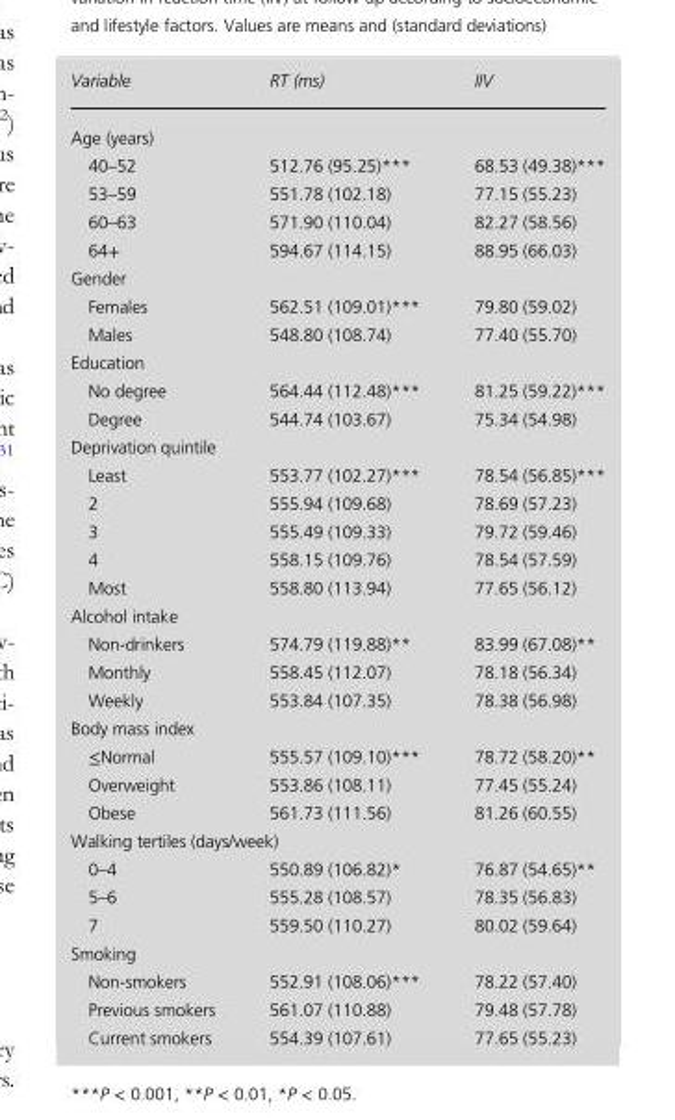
<table><thead><tr><td>Variable</td><td>RT (ms)</td><td>IIV</td></tr></thead><tbody><tr><td colspan="3">Age (years)</td></tr><tr><td>40–52</td><td>512.76 (95.25)***</td><td>68.53 (49.38)***</td></tr><tr><td>53–59</td><td>551.78 (102.18)</td><td>77.15 (55.23)</td></tr><tr><td>60–63</td><td>571.90 (110.04)</td><td>82.27 (58.56)</td></tr><tr><td>64+</td><td>594.67 (114.15)</td><td>88.95 (66.03)</td></tr><tr><td colspan="3">Gender</td></tr><tr><td>Females</td><td>562.51 (109.01)***</td><td>79.80 (59.02)</td></tr><tr><td>Males</td><td>548.80 (108.74)</td><td>77.40 (55.70)</td></tr><tr><td colspan="3">Education</td></tr><tr><td>No degree</td><td>564.44 (112.48)***</td><td>81.25 (59.22)***</td></tr><tr><td>Degree</td><td>544.74 (103.67)</td><td>75.34 (54.98)</td></tr><tr><td colspan="3">Deprivation quintile</td></tr><tr><td>Least</td><td>553.77 (102.27)***</td><td>78.54 (56.85)***</td></tr><tr><td>2</td><td>555.94 (109.68)</td><td>78.69 (57.23)</td></tr><tr><td>3</td><td>555.49 (109.33)</td><td>79.72 (59.46)</td></tr><tr><td>4</td><td>558.15 (109.76)</td><td>78.54 (57.59)</td></tr><tr><td>Most</td><td>558.80 (113.94)</td><td>77.65 (56.12)</td></tr><tr><td colspan="3">Alcohol intake</td></tr><tr><td>Non-drinkers</td><td>574.79 (119.88)**</td><td>83.99 (67.08)**</td></tr><tr><td>Monthly</td><td>558.45 (112.07)</td><td>78.18 (56.34)</td></tr><tr><td>Weekly</td><td>553.84 (107.35)</td><td>78.38 (56.98)</td></tr><tr><td colspan="3">Body mass index</td></tr><tr><td>≤Normal</td><td>555.57 (109.10)***</td><td>78.72 (58.20)**</td></tr><tr><td>Overweight</td><td>553.86 (108.11)</td><td>77.45 (55.24)</td></tr><tr><td>Obese</td><td>561.73 (111.56)</td><td>81.26 (60.55)</td></tr><tr><td colspan="3">Walking tertiles (days/week)</td></tr><tr><td>0–4</td><td>550.89 (106.82)*</td><td>76.87 (54.65)**</td></tr><tr><td>5–6</td><td>555.28 (108.57)</td><td>78.35 (56.83)</td></tr><tr><td>7</td><td>559.50 (110.27)</td><td>80.02 (59.64)</td></tr><tr><td colspan="3">Smoking</td></tr><tr><td>Non-smokers</td><td>552.91 (108.06)***</td><td>78.22 (57.40)</td></tr><tr><td>Previous smokers</td><td>561.07 (110.88)</td><td>79.48 (57.78)</td></tr><tr><td>Current smokers</td><td>554.39 (107.61)</td><td>77.65 (55.23)</td></tr></tbody></table>